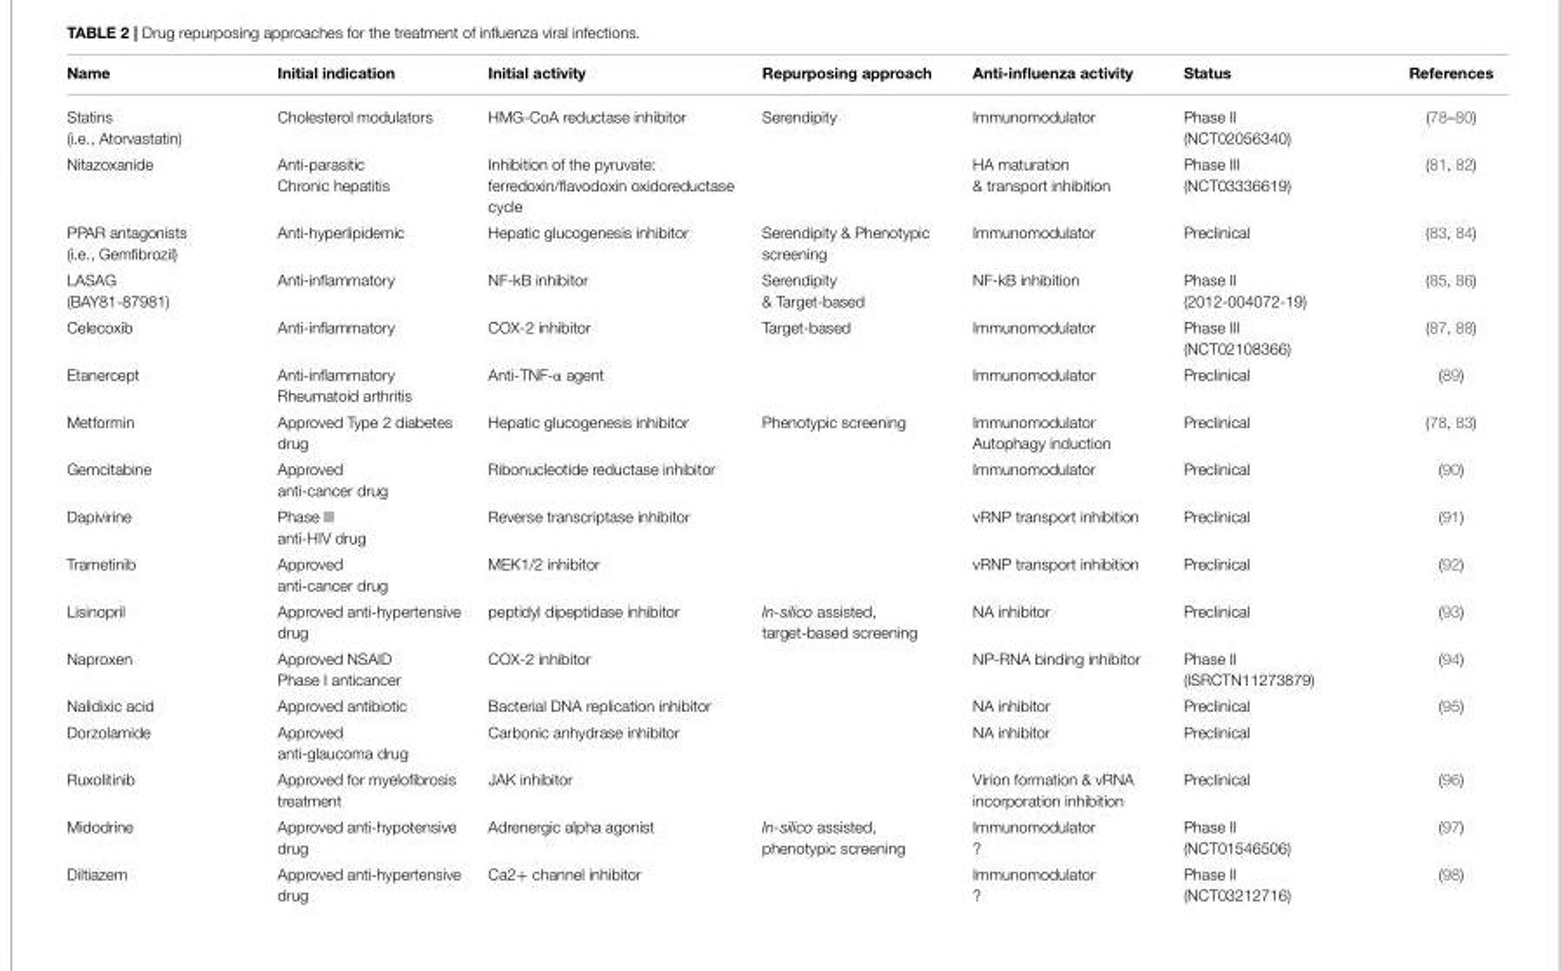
<table><thead><tr><td>Name</td><td>Initial indication</td><td>Initial activity</td><td>Repurposing approach</td><td>Anti-influenza activity</td><td>Status</td><td>References</td></tr></thead><tbody><tr><td>Statins (i.e., Atorvastatin)</td><td>Cholesterol modulators</td><td>HMG-CoA reductase inhibitor</td><td>Serendipity</td><td>Immunomodulator</td><td>Phase II (NCT02056340)</td><td>(78–80)</td></tr><tr><td>Nitazoxanide</td><td>Anti-parasitic Chronic hepatitis</td><td>Inhibition of the pyruvate: ferredoxin/flavodoxin oxidoreductase cycle</td><td></td><td>HA maturation &amp; transport inhibition</td><td>Phase III (NCT03336619)</td><td>(81, 82)</td></tr><tr><td>PPAR antagonists (i.e., Gemfibrozil)</td><td>Anti-hyperlipidemic</td><td>Hepatic glucogenesis inhibitor</td><td>Serendipity &amp; Phenotypic screening</td><td>Immunomodulator</td><td>Preclinical</td><td>(83, 84)</td></tr><tr><td>LASAG (BAY81-87981)</td><td>Anti-inflammatory</td><td>NF-kB inhibitor</td><td>Serendipity &amp; Target-based</td><td>NF-kB inhibition</td><td>Phase II (2012-004072-19)</td><td>(85, 86)</td></tr><tr><td>Celecoxib</td><td>Anti-inflammatory</td><td>COX-2 inhibitor</td><td>Target-based</td><td>Immunomodulator</td><td>Phase III (NCT02108366)</td><td>(87, 88)</td></tr><tr><td>Etanercept</td><td>Anti-inflammatory Rheumatoid arthritis</td><td>Anti-TNF-α agent</td><td></td><td>Immunomodulator</td><td>Preclinical</td><td>(89)</td></tr><tr><td>Metformin</td><td>Approved Type 2 diabetes drug</td><td>Hepatic glucogenesis inhibitor</td><td>Phenotypic screening</td><td>Immunomodulator Autophagy induction</td><td>Preclinical</td><td>(78, 83)</td></tr><tr><td>Gemcitabine</td><td>Approved anti-cancer drug</td><td>Ribonucleotide reductase inhibitor</td><td></td><td>Immunomodulator</td><td>Preclinical</td><td>(90)</td></tr><tr><td>Dapivirine</td><td>Phase III anti-HIV drug</td><td>Reverse transcriptase inhibitor</td><td></td><td>vRNP transport inhibition</td><td>Preclinical</td><td>(91)</td></tr><tr><td>Trametinib</td><td>Approved anti-cancer drug</td><td>MEK1/2 inhibitor</td><td></td><td>vRNP transport inhibition</td><td>Preclinical</td><td>(92)</td></tr><tr><td>Lisinopril</td><td>Approved anti-hypertensive drug</td><td>peptidyl dipeptidase inhibitor</td><td>In-silico assisted, target-based screening</td><td>NA inhibitor</td><td>Preclinical</td><td>(93)</td></tr><tr><td>Naproxen</td><td>Approved NSAID Phase I anticancer</td><td>COX-2 inhibitor</td><td></td><td>NP-RNA binding inhibitor</td><td>Phase II (ISRCTN11273879)</td><td>(94)</td></tr><tr><td>Nalidixic acid</td><td>Approved antibiotic</td><td>Bacterial DNA replication inhibitor</td><td></td><td>NA inhibitor</td><td>Preclinical</td><td>(95)</td></tr><tr><td>Dorzolamide</td><td>Approved anti-glaucoma drug</td><td>Carbonic anhydrase inhibitor</td><td></td><td>NA inhibitor</td><td>Preclinical</td><td></td></tr><tr><td>Ruxolitinib</td><td>Approved for myelofibrosis treatment</td><td>JAK inhibitor</td><td></td><td>Virion formation &amp; vRNA incorporation inhibition</td><td>Preclinical</td><td>(96)</td></tr><tr><td>Midodrine</td><td>Approved anti-hypotensive drug</td><td>Adrenergic alpha agonist</td><td>In-silico assisted, phenotypic screening</td><td>Immunomodulator ?</td><td>Phase II (NCT01546506)</td><td>(97)</td></tr><tr><td>Diltiazem</td><td>Approved anti-hypertensive drug</td><td>Ca2+ channel inhibitor</td><td></td><td>Immunomodulator ?</td><td>Phase II (NCT03212716)</td><td>(98)</td></tr></tbody></table>